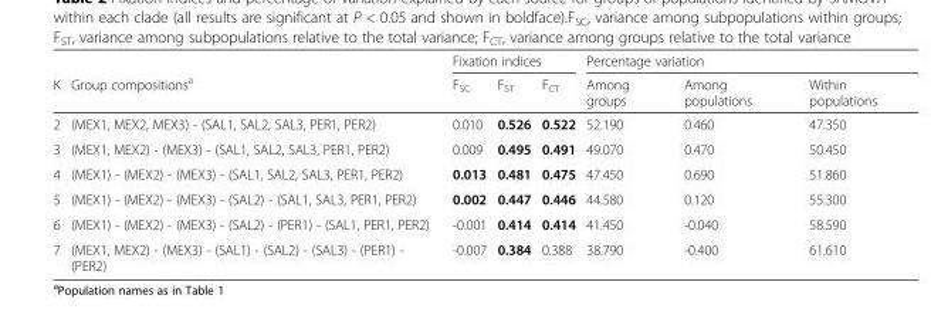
<table><thead><tr><td rowspan="2">K</td><td rowspan="2">Group compositions<sup>a</sup></td><td colspan="3">Fixation indices</td><td colspan="3">Percentage variation</td></tr><tr><td>F<sub>SC</sub></td><td>F<sub>ST</sub></td><td>F<sub>CT</sub></td><td>Among groups</td><td>Among populations</td><td>Within populations</td></tr></thead><tbody><tr><td>2</td><td>(MEX1, MEX2, MEX3) - (SAL1, SAL2, SAL3, PER1, PER2)</td><td>0.010</td><td>0.526</td><td>0.522</td><td>52.190</td><td>0.460</td><td>47.350</td></tr><tr><td>3</td><td>(MEX1, MEX2) - (MEX3) - (SAL1, SAL2, SAL3, PER1, PER2)</td><td>0.009</td><td>0.495</td><td>0.491</td><td>49.070</td><td>0.470</td><td>50.450</td></tr><tr><td>4</td><td>(MEX1) - (MEX2) - (MEX3) - (SAL1, SAL2, SAL3, PER1, PER2)</td><td>0.013</td><td>0.481</td><td>0.475</td><td>47.450</td><td>0.690</td><td>51.860</td></tr><tr><td>5</td><td>(MEX1) - (MEX2) - (MEX3) - (SAL2) - (SAL1, SAL3, PER1, PER2)</td><td>0.002</td><td>0.447</td><td>0.446</td><td>44.580</td><td>0.120</td><td>55.300</td></tr><tr><td>6</td><td>(MEX1) - (MEX2) - (MEX3) - (SAL2) - (PER1) - (SAL1, PER1, PER2)</td><td>-0.001</td><td>0.414</td><td>0.414</td><td>41.450</td><td>-0.040</td><td>58.590</td></tr><tr><td>7</td><td>(MEX1, MEX2) - (MEX3) - (SAL1) - (SAL2) - (SAL3) - (PER1) - (PER2)</td><td>-0.007</td><td>0.384</td><td>0.388</td><td>38.790</td><td>-0.400</td><td>61.610</td></tr></tbody></table>